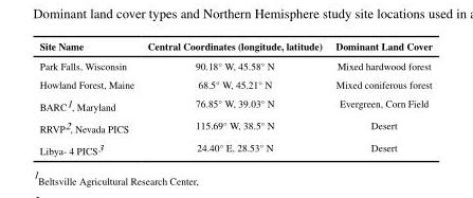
<table><thead><tr><td>Site Name</td><td>Central Coordinates (longitude, latitude)</td><td>Dominant Land Cover</td></tr></thead><tbody><tr><td>Park Falls, Wisconsin</td><td>90.18° W, 45.58° N</td><td>Mixed hardwood forest</td></tr><tr><td>Howland Forest, Maine</td><td>68.5° W, 45.21° N</td><td>Mixed coniferous forest</td></tr><tr><td>BARC<sup>1</sup>, Maryland</td><td>76.85° W, 39.03° N</td><td>Evergreen, Corn Field</td></tr><tr><td>RRVP<sup>2</sup>, Nevada PICS</td><td>115.69° W, 38.5° N</td><td>Desert</td></tr><tr><td>Libya- 4 PICS<sup>3</sup></td><td>24.40° E, 28.53° N</td><td>Desert</td></tr></tbody></table>